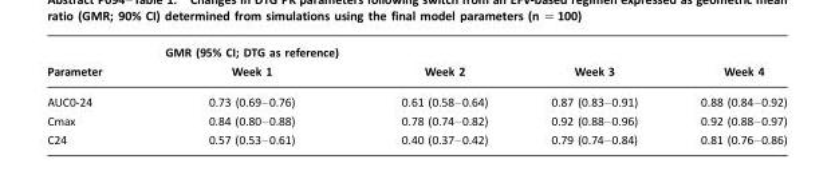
<table><thead><tr><td rowspan="2">Parameter</td><td rowspan="2">GMR (95% CI; DTG as reference) Week 1</td><td rowspan="2">Week 2</td><td rowspan="2">Week 3</td><td rowspan="2">Week 4</td></tr><tr></tr></thead><tbody><tr><td>AUC0-24</td><td>0.73 (0.69–0.76)</td><td>0.61 (0.58–0.64)</td><td>0.87 (0.83–0.91)</td><td>0.88 (0.84–0.92)</td></tr><tr><td>Cmax</td><td>0.84 (0.80–0.88)</td><td>0.78 (0.74–0.82)</td><td>0.92 (0.88–0.96)</td><td>0.92 (0.88–0.97)</td></tr><tr><td>C24</td><td>0.57 (0.53–0.61)</td><td>0.40 (0.37–0.42)</td><td>0.79 (0.74–0.84)</td><td>0.81 (0.76–0.86)</td></tr></tbody></table>